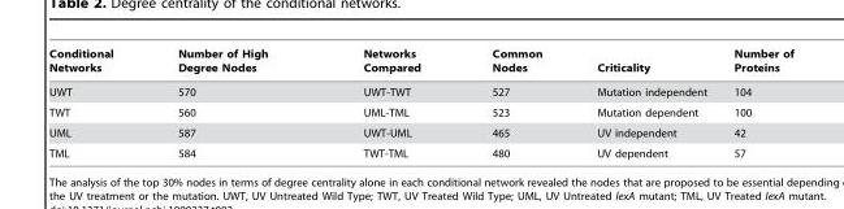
<table><thead><tr><td>Conditional Networks</td><td>Number of High Degree Nodes</td><td>Networks Compared</td><td>Common Nodes</td><td>Criticality</td><td>Number of Proteins</td></tr></thead><tbody><tr><td>UWT</td><td>570</td><td>UWT-TWT</td><td>527</td><td>Mutation independent</td><td>104</td></tr><tr><td>TWT</td><td>560</td><td>UML-TML</td><td>523</td><td>Mutation dependent</td><td>100</td></tr><tr><td>UML</td><td>587</td><td>UWT-UML</td><td>465</td><td>UV independent</td><td>42</td></tr><tr><td>TML</td><td>584</td><td>TWT-TML</td><td>480</td><td>UV dependent</td><td>57</td></tr></tbody></table>